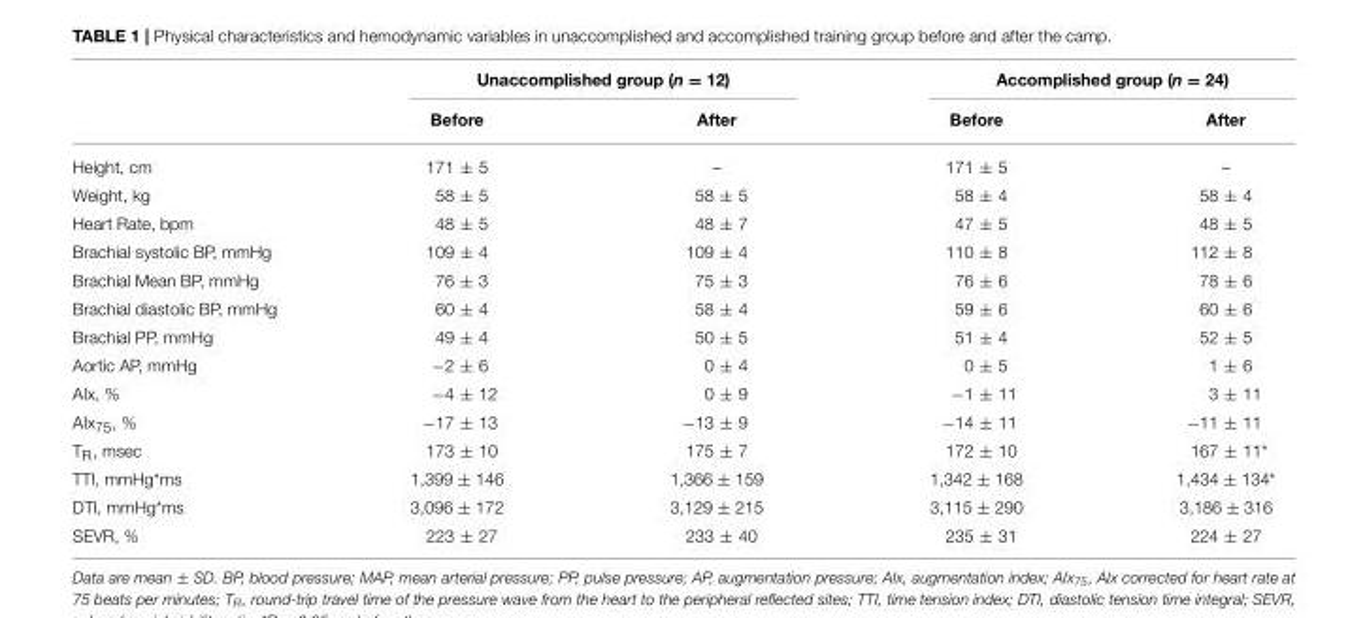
<table><thead><tr><td rowspan="2"></td><td colspan="2">Unaccomplished group (n = 12)</td><td colspan="2">Accomplished group (n = 24)</td></tr><tr><td>Before</td><td>After</td><td>Before</td><td>After</td></tr></thead><tbody><tr><td>Height, cm</td><td>171 ± 5</td><td>–</td><td>171 ± 5</td><td>–</td></tr><tr><td>Weight, kg</td><td>58 ± 5</td><td>58 ± 5</td><td>58 ± 4</td><td>58 ± 4</td></tr><tr><td>Heart Rate, bpm</td><td>48 ± 5</td><td>48 ± 7</td><td>47 ± 5</td><td>48 ± 5</td></tr><tr><td>Brachial systolic BP, mmHg</td><td>109 ± 4</td><td>109 ± 4</td><td>110 ± 8</td><td>112 ± 8</td></tr><tr><td>Brachial Mean BP, mmHg</td><td>76 ± 3</td><td>75 ± 3</td><td>76 ± 6</td><td>78 ± 6</td></tr><tr><td>Brachial diastolic BP, mmHg</td><td>60 ± 4</td><td>58 ± 4</td><td>59 ± 6</td><td>60 ± 6</td></tr><tr><td>Brachial PP, mmHg</td><td>49 ± 4</td><td>50 ± 5</td><td>51 ± 4</td><td>52 ± 5</td></tr><tr><td>Aortic AP, mmHg</td><td>−2 ± 6</td><td>0 ± 4</td><td>0 ± 5</td><td>1 ± 6</td></tr><tr><td>AIx, %</td><td>−4 ± 12</td><td>0 ± 9</td><td>−1 ± 11</td><td>3 ± 11</td></tr><tr><td>AIx<sub>75</sub>, %</td><td>−17 ± 13</td><td>−13 ± 9</td><td>−14 ± 11</td><td>−11 ± 11</td></tr><tr><td>T<sub>R</sub>, msec</td><td>173 ± 10</td><td>175 ± 7</td><td>172 ± 10</td><td>167 ± 11*</td></tr><tr><td>TTI, mmHg*ms</td><td>1,399 ± 146</td><td>1,366 ± 159</td><td>1,342 ± 168</td><td>1,434 ± 134*</td></tr><tr><td>DTI, mmHg*ms</td><td>3,096 ± 172</td><td>3,129 ± 215</td><td>3,115 ± 290</td><td>3,186 ± 316</td></tr><tr><td>SEVR, %</td><td>223 ± 27</td><td>233 ± 40</td><td>235 ± 31</td><td>224 ± 27</td></tr></tbody></table>